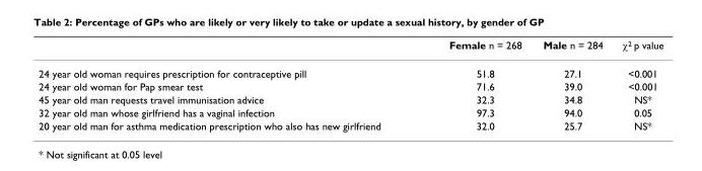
<table><thead><tr><td></td><td>Female n = 268</td><td>Male n = 284</td><td>χ<sup>2</sup> p value</td></tr></thead><tbody><tr><td>24 year old woman requires prescription for contraceptive pill</td><td>51.8</td><td>27.1</td><td>&lt;0.001</td></tr><tr><td>24 year old woman for Pap smear test</td><td>71.6</td><td>39.0</td><td>&lt;0.001</td></tr><tr><td>45 year old man requests travel immunisation advice</td><td>32.3</td><td>34.8</td><td>NS*</td></tr><tr><td>32 year old man whose girlfriend has a vaginal infection</td><td>97.3</td><td>94.0</td><td>0.05</td></tr><tr><td>20 year old man for asthma medication prescription who also has new girlfriend</td><td>32.0</td><td>25.7</td><td>NS*</td></tr></tbody></table>